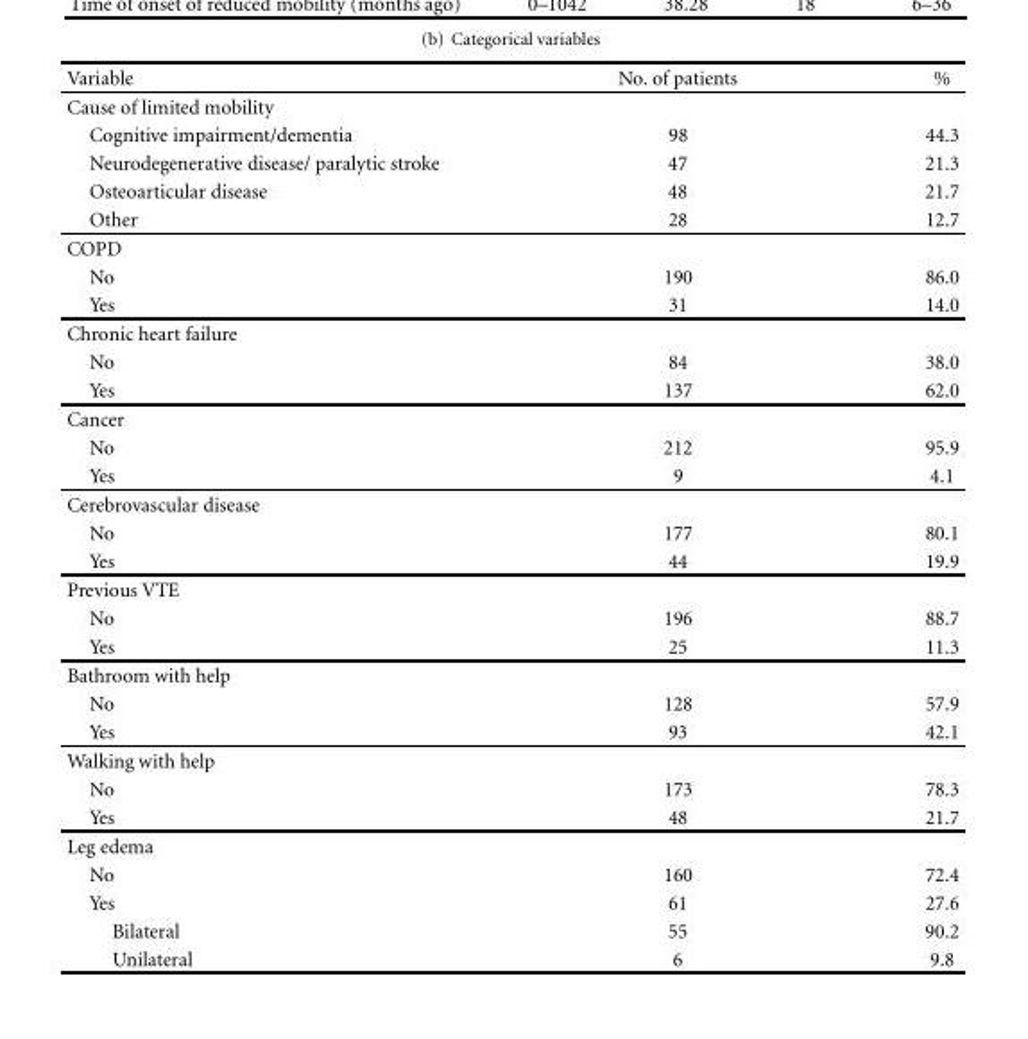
<table><thead><tr><td>Variable</td><td>No. of patients</td><td>%</td></tr></thead><tbody><tr><td colspan="3">Cause of limited mobility</td></tr><tr><td>Cognitive impairment/dementia</td><td>98</td><td>44.3</td></tr><tr><td>Neurodegenerative disease/ paralytic stroke</td><td>47</td><td>21.3</td></tr><tr><td>Osteoarticular disease</td><td>48</td><td>21.7</td></tr><tr><td>Other</td><td>28</td><td>12.7</td></tr><tr><td colspan="3">COPD</td></tr><tr><td>No</td><td>190</td><td>86.0</td></tr><tr><td>Yes</td><td>31</td><td>14.0</td></tr><tr><td colspan="3">Chronic heart failure</td></tr><tr><td>No</td><td>84</td><td>38.0</td></tr><tr><td>Yes</td><td>137</td><td>62.0</td></tr><tr><td colspan="3">Cancer</td></tr><tr><td>No</td><td>212</td><td>95.9</td></tr><tr><td>Yes</td><td>9</td><td>4.1</td></tr><tr><td colspan="3">Cerebrovascular disease</td></tr><tr><td>No</td><td>177</td><td>80.1</td></tr><tr><td>Yes</td><td>44</td><td>19.9</td></tr><tr><td colspan="3">Previous VTE</td></tr><tr><td>No</td><td>196</td><td>88.7</td></tr><tr><td>Yes</td><td>25</td><td>11.3</td></tr><tr><td colspan="3">Bathroom with help</td></tr><tr><td>No</td><td>128</td><td>57.9</td></tr><tr><td>Yes</td><td>93</td><td>42.1</td></tr><tr><td colspan="3">Walking with help</td></tr><tr><td>No</td><td>173</td><td>78.3</td></tr><tr><td>Yes</td><td>48</td><td>21.7</td></tr><tr><td colspan="3">Leg edema</td></tr><tr><td>No</td><td>160</td><td>72.4</td></tr><tr><td>Yes</td><td>61</td><td>27.6</td></tr><tr><td>Bilateral</td><td>55</td><td>90.2</td></tr><tr><td>Unilateral</td><td>6</td><td>9.8</td></tr></tbody></table>